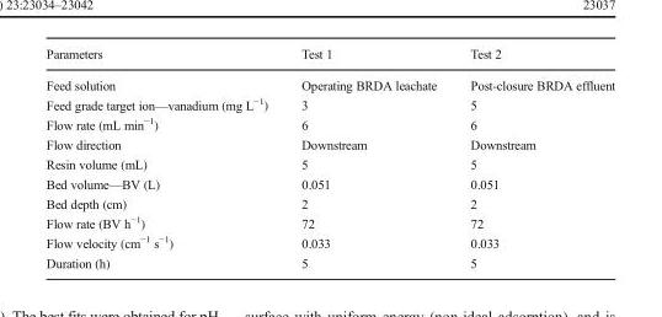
<table><thead><tr><td>Parameters</td><td>Test 1</td><td>Test 2</td></tr></thead><tbody><tr><td>Feed solution</td><td>Operating BRDA leachate</td><td>Post-closure BRDA effluent</td></tr><tr><td>Feed grade target ion—vanadium (mg L<sup>−1</sup>)</td><td>3</td><td>5</td></tr><tr><td>Flow rate (mL min<sup>−1</sup>)</td><td>6</td><td>6</td></tr><tr><td>Flow direction</td><td>Downstream</td><td>Downstream</td></tr><tr><td>Resin volume (mL)</td><td>5</td><td>5</td></tr><tr><td>Bed volume—BV (L)</td><td>0.051</td><td>0.051</td></tr><tr><td>Bed depth (cm)</td><td>2</td><td>2</td></tr><tr><td>Flow rate (BV h<sup>−1</sup>)</td><td>72</td><td>72</td></tr><tr><td>Flow velocity (cm<sup>−1</sup> s<sup>−1</sup>)</td><td>0.033</td><td>0.033</td></tr><tr><td>Duration (h)</td><td>5</td><td>5</td></tr></tbody></table>